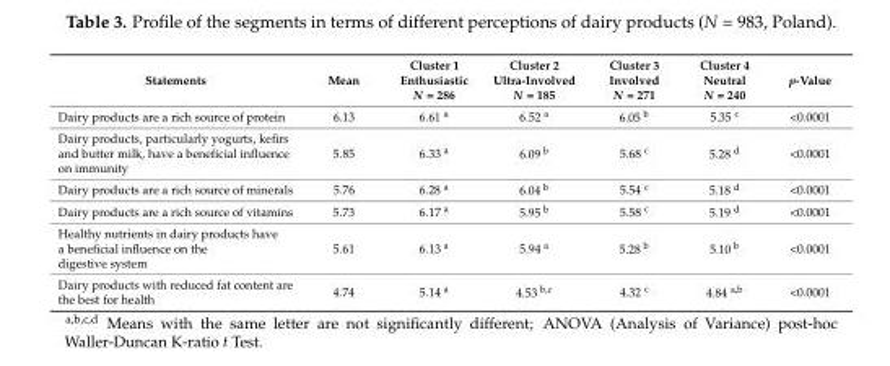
<table><thead><tr><td>Statements</td><td>Mean</td><td>Cluster 1 Enthusiastic N = 286</td><td>Cluster 2 Ultra-Involved N = 185</td><td>Cluster 3 Involved N = 271</td><td>Cluster 4 Neutral N = 240</td><td>p-Value</td></tr></thead><tbody><tr><td>Dairy products are a rich source of protein</td><td>6.13</td><td>6.61 <sup>a</sup></td><td>6.52 <sup>a</sup></td><td>6.05 <sup>b</sup></td><td>5.35 <sup>c</sup></td><td>&lt;0.0001</td></tr><tr><td>Dairy products, particularly yogurts, kefirs and butter milk, have a beneficial influence on immunity</td><td>5.85</td><td>6.33 <sup>a</sup></td><td>6.09 <sup>b</sup></td><td>5.68 <sup>c</sup></td><td>5.28 <sup>d</sup></td><td>&lt;0.0001</td></tr><tr><td>Dairy products are a rich source of minerals</td><td>5.76</td><td>6.28 <sup>a</sup></td><td>6.04 <sup>b</sup></td><td>5.54 <sup>c</sup></td><td>5.18 <sup>d</sup></td><td>&lt;0.0001</td></tr><tr><td>Dairy products are a rich source of vitamins</td><td>5.73</td><td>6.17 <sup>a</sup></td><td>5.95 <sup>b</sup></td><td>5.58 <sup>c</sup></td><td>5.19 <sup>d</sup></td><td>&lt;0.0001</td></tr><tr><td>Healthy nutrients in dairy products have a beneficial influence on the digestive system</td><td>5.61</td><td>6.13 <sup>a</sup></td><td>5.94 <sup>a</sup></td><td>5.28 <sup>b</sup></td><td>5.10 <sup>b</sup></td><td>&lt;0.0001</td></tr><tr><td>Dairy products with reduced fat content are the best for health</td><td>4.74</td><td>5.14 <sup>a</sup></td><td>4.53 <sup>b,c</sup></td><td>4.32 <sup>c</sup></td><td>4.84 <sup>a,b</sup></td><td>&lt;0.0001</td></tr></tbody></table>